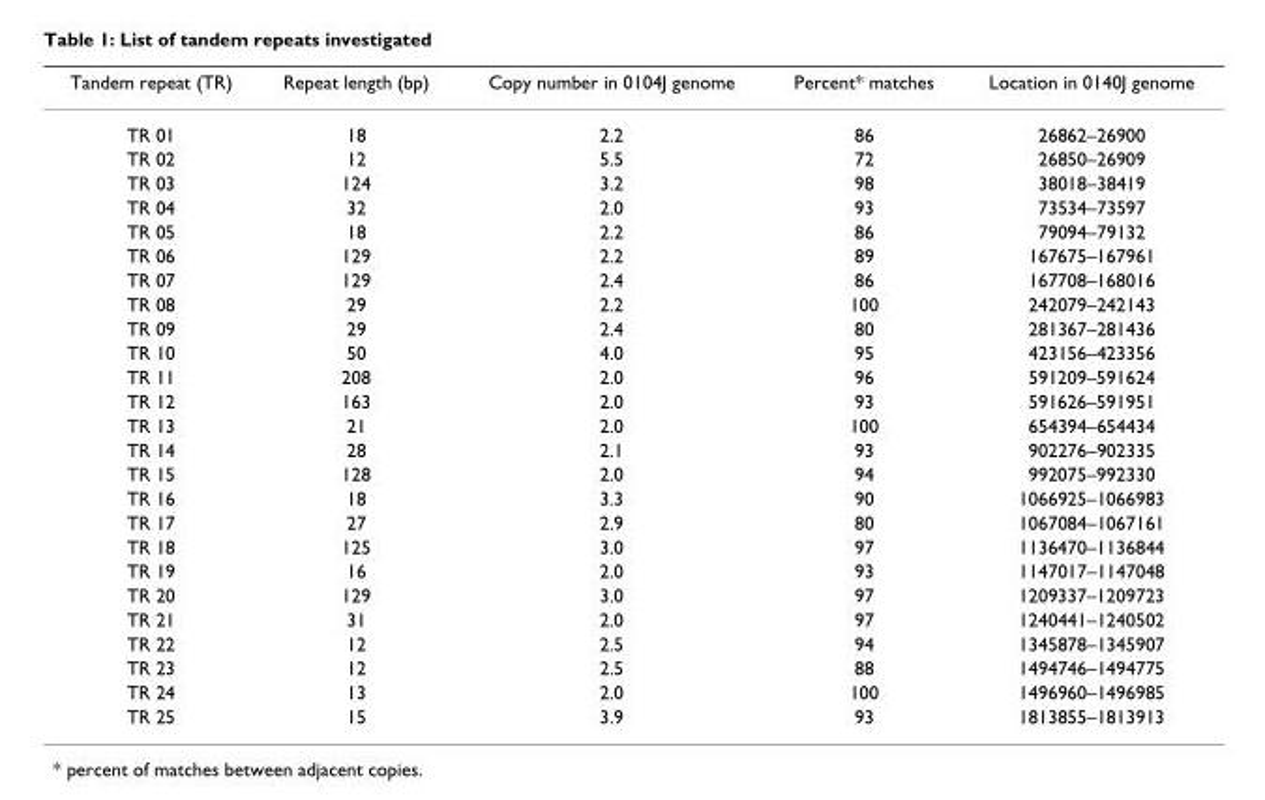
<table><thead><tr><td>Tandem repeat (TR)</td><td>Repeat length (bp)</td><td>Copy number in 0104J genome</td><td>Percent* matches</td><td>Location in 0140J genome</td></tr></thead><tbody><tr><td>TR 01</td><td>18</td><td>2.2</td><td>86</td><td>26862–26900</td></tr><tr><td>TR 02</td><td>12</td><td>5.5</td><td>72</td><td>26850–26909</td></tr><tr><td>TR 03</td><td>124</td><td>3.2</td><td>98</td><td>38018–38419</td></tr><tr><td>TR 04</td><td>32</td><td>2.0</td><td>93</td><td>73534–73597</td></tr><tr><td>TR 05</td><td>18</td><td>2.2</td><td>86</td><td>79094–79132</td></tr><tr><td>TR 06</td><td>129</td><td>2.2</td><td>89</td><td>167675–167961</td></tr><tr><td>TR 07</td><td>129</td><td>2.4</td><td>86</td><td>167708–168016</td></tr><tr><td>TR 08</td><td>29</td><td>2.2</td><td>100</td><td>242079–242143</td></tr><tr><td>TR 09</td><td>29</td><td>2.4</td><td>80</td><td>281367–281436</td></tr><tr><td>TR 10</td><td>50</td><td>4.0</td><td>95</td><td>423156–423356</td></tr><tr><td>TR 11</td><td>208</td><td>2.0</td><td>96</td><td>591209–591624</td></tr><tr><td>TR 12</td><td>163</td><td>2.0</td><td>93</td><td>591626–591951</td></tr><tr><td>TR 13</td><td>21</td><td>2.0</td><td>100</td><td>654394–654434</td></tr><tr><td>TR 14</td><td>28</td><td>2.1</td><td>93</td><td>902276–902335</td></tr><tr><td>TR 15</td><td>128</td><td>2.0</td><td>94</td><td>992075–992330</td></tr><tr><td>TR 16</td><td>18</td><td>3.3</td><td>90</td><td>1066925–1066983</td></tr><tr><td>TR 17</td><td>27</td><td>2.9</td><td>80</td><td>1067084–1067161</td></tr><tr><td>TR 18</td><td>125</td><td>3.0</td><td>97</td><td>1136470–1136844</td></tr><tr><td>TR 19</td><td>16</td><td>2.0</td><td>93</td><td>1147017–1147048</td></tr><tr><td>TR 20</td><td>129</td><td>3.0</td><td>97</td><td>1209337–1209723</td></tr><tr><td>TR 21</td><td>31</td><td>2.0</td><td>97</td><td>1240441–1240502</td></tr><tr><td>TR 22</td><td>12</td><td>2.5</td><td>94</td><td>1345878–1345907</td></tr><tr><td>TR 23</td><td>12</td><td>2.5</td><td>88</td><td>1494746–1494775</td></tr><tr><td>TR 24</td><td>13</td><td>2.0</td><td>100</td><td>1496960–1496985</td></tr><tr><td>TR 25</td><td>15</td><td>3.9</td><td>93</td><td>1813855–1813913</td></tr></tbody></table>